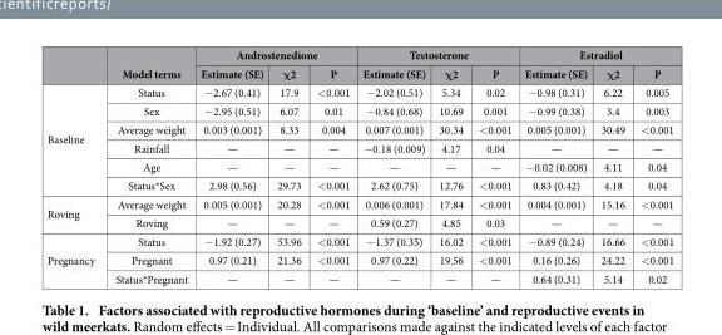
<table><thead><tr><td rowspan="2"></td><td rowspan="2">Model terms</td><td colspan="3">Androstenedione</td><td colspan="3">Testosterone</td><td colspan="3">Estradiol</td></tr><tr><td>Estimate (SE)</td><td>χ2</td><td>P</td><td>Estimate (SE)</td><td>χ2</td><td>P</td><td>Estimate (SE)</td><td>χ2</td><td>P</td></tr></thead><tbody><tr><td rowspan="6">Baseline</td><td>Status</td><td>− 2.67 (0.41)</td><td>17.9</td><td>&lt; 0.001</td><td>− 2.02 (0.51)</td><td>5.34</td><td>0.02</td><td>− 0.98 (0.31)</td><td>6.22</td><td>0.005</td></tr><tr><td>Sex</td><td>− 2.95 (0.51)</td><td>6.07</td><td>0.01</td><td>− 0.84 (0.68)</td><td>10.69</td><td>0.001</td><td>− 0.99 (0.38)</td><td>3.4</td><td>0.003</td></tr><tr><td>Average weight</td><td>0.003 (0.001)</td><td>8.33</td><td>0.004</td><td>0.007 (0.001)</td><td>30.34</td><td>&lt; 0.001</td><td>0.005 (0.001)</td><td>30.49</td><td>&lt; 0.001</td></tr><tr><td>Rainfall</td><td>—</td><td>—</td><td>—</td><td>− 0.18 (0.009)</td><td>4.17</td><td>0.04</td><td>—</td><td>—</td><td>—</td></tr><tr><td>Age</td><td>—</td><td>—</td><td>—</td><td>—</td><td>—</td><td>—</td><td>− 0.02 (0.008)</td><td>4.11</td><td>0.04</td></tr><tr><td>Status*Sex</td><td>2.98 (0.56)</td><td>29.73</td><td>&lt; 0.001</td><td>2.62 (0.75)</td><td>12.76</td><td>&lt; 0.001</td><td>0.83 (0.42)</td><td>4.18</td><td>0.04</td></tr><tr><td rowspan="2">Roving</td><td>Average weight</td><td>0.005 (0.001)</td><td>20.28</td><td>&lt; 0.001</td><td>0.006 (0.001)</td><td>17.84</td><td>&lt; 0.001</td><td>0.004 (0.001)</td><td>15.16</td><td>&lt; 0.001</td></tr><tr><td>Roving</td><td>—</td><td>—</td><td>—</td><td>0.59 (0.27)</td><td>4.85</td><td>0.03</td><td>—</td><td>—</td><td>—</td></tr><tr><td rowspan="3">Pregnancy</td><td>Status</td><td>− 1.92 (0.27)</td><td>53.96</td><td>&lt; 0.001</td><td>− 1.37 (0.35)</td><td>16.02</td><td>&lt; 0.001</td><td>− 0.89 (0.24)</td><td>16.66</td><td>&lt; 0.001</td></tr><tr><td>Pregnant</td><td>0.97 (0.21)</td><td>21.36</td><td>&lt; 0.001</td><td>0.97 (0.22)</td><td>19.56</td><td>&lt; 0.001</td><td>0.16 (0.26)</td><td>24.22</td><td>&lt; 0.001</td></tr><tr><td>Status*Pregnant</td><td>—</td><td>—</td><td>—</td><td>—</td><td>—</td><td>—</td><td>0.64 (0.31)</td><td>5.14</td><td>0.02</td></tr></tbody></table>